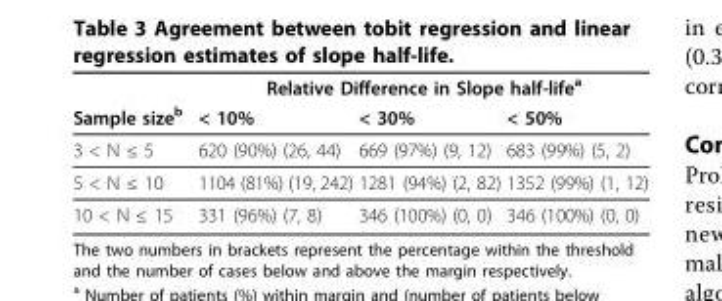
<table><thead><tr><td rowspan="2">Sample size<sup>b</sup></td><td colspan="3">Relative Difference in Slope half-life<sup>a</sup></td></tr><tr><td>&lt; 10%</td><td>&lt; 30%</td><td>&lt; 50%</td></tr></thead><tbody><tr><td>3 &lt; N ≤ 5</td><td>620 (90%) (26, 44)</td><td>669 (97%) (9, 12)</td><td>683 (99%) (5, 2)</td></tr><tr><td>5 &lt; N ≤ 10</td><td>1104 (81%) (19, 242)</td><td>1281 (94%) (2, 82)</td><td>1352 (99%) (1, 12)</td></tr><tr><td>10 &lt; N ≤ 15</td><td>331 (96%) (7, 8)</td><td>346 (100%) (0, 0)</td><td>346 (100%) (0, 0)</td></tr></tbody></table>